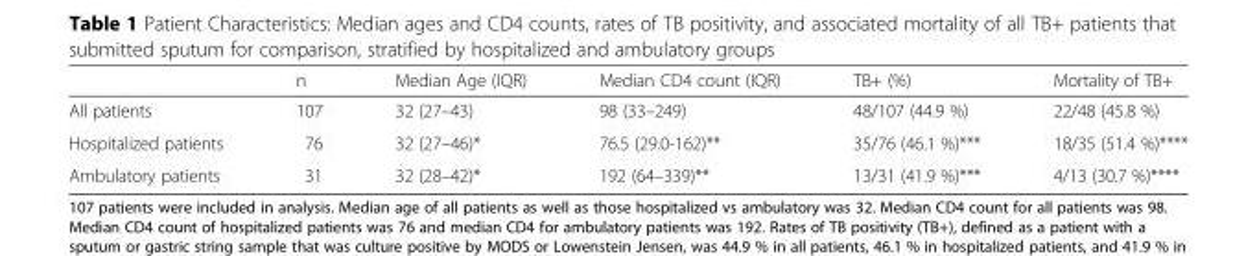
<table><thead><tr><td></td><td>n</td><td>Median Age (IQR)</td><td>Median CD4 count (IQR)</td><td>TB+ (%)</td><td>Mortality of TB+</td></tr></thead><tbody><tr><td>All patients</td><td>107</td><td>32 (27–43)</td><td>98 (33–249)</td><td>48/107 (44.9 %)</td><td>22/48 (45.8 %)</td></tr><tr><td>Hospitalized patients</td><td>76</td><td>32 (27–46)*</td><td>76.5 (29.0-162)**</td><td>35/76 (46.1 %)***</td><td>18/35 (51.4 %)****</td></tr><tr><td>Ambulatory patients</td><td>31</td><td>32 (28–42)*</td><td>192 (64–339)**</td><td>13/31 (41.9 %)***</td><td>4/13 (30.7 %)****</td></tr></tbody></table>